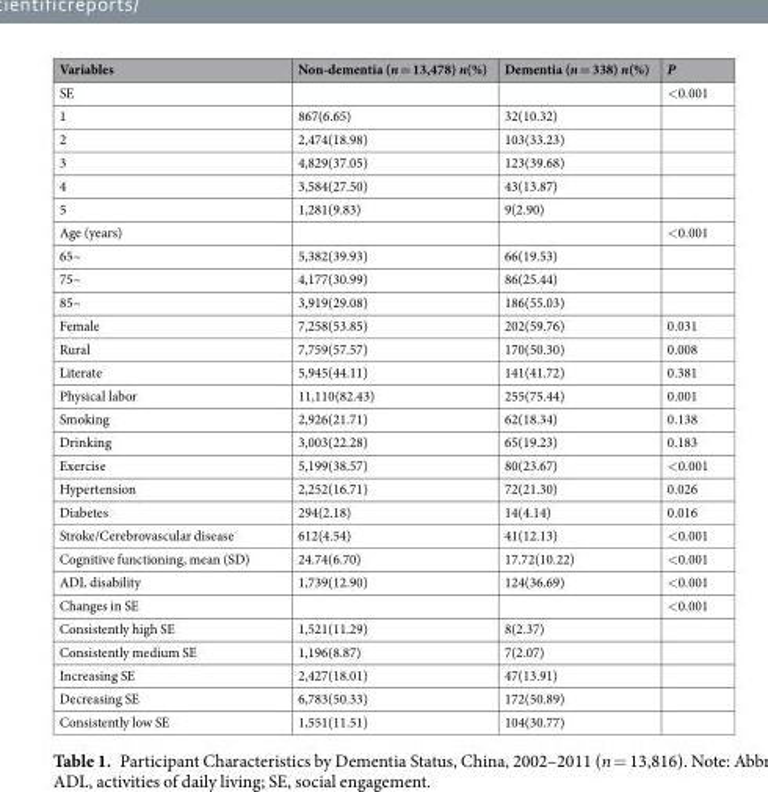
<table><thead><tr><td>Variables</td><td>Non-dementia (n = 13,478) n(%)</td><td>Dementia (n = 338) n(%)</td><td>P</td></tr></thead><tbody><tr><td>SE</td><td></td><td></td><td>&lt;0.001</td></tr><tr><td>1</td><td>867(6.65)</td><td>32(10.32)</td><td></td></tr><tr><td>2</td><td>2,474(18.98)</td><td>103(33.23)</td><td></td></tr><tr><td>3</td><td>4,829(37.05)</td><td>123(39.68)</td><td></td></tr><tr><td>4</td><td>3,584(27.50)</td><td>43(13.87)</td><td></td></tr><tr><td>5</td><td>1,281(9.83)</td><td>9(2.90)</td><td></td></tr><tr><td>Age (years)</td><td></td><td></td><td>&lt;0.001</td></tr><tr><td>65~</td><td>5,382(39.93)</td><td>66(19.53)</td><td></td></tr><tr><td>75~</td><td>4,177(30.99)</td><td>86(25.44)</td><td></td></tr><tr><td>85~</td><td>3,919(29.08)</td><td>186(55.03)</td><td></td></tr><tr><td>Female</td><td>7,258(53.85)</td><td>202(59.76)</td><td>0.031</td></tr><tr><td>Rural</td><td>7,759(57.57)</td><td>170(50.30)</td><td>0.008</td></tr><tr><td>Literate</td><td>5,945(44.11)</td><td>141(41.72)</td><td>0.381</td></tr><tr><td>Physical labor</td><td>11,110(82.43)</td><td>255(75.44)</td><td>0.001</td></tr><tr><td>Smoking</td><td>2,926(21.71)</td><td>62(18.34)</td><td>0.138</td></tr><tr><td>Drinking</td><td>3,003(22.28)</td><td>65(19.23)</td><td>0.183</td></tr><tr><td>Exercise</td><td>5,199(38.57)</td><td>80(23.67)</td><td>&lt;0.001</td></tr><tr><td>Hypertension</td><td>2,252(16.71)</td><td>72(21.30)</td><td>0.026</td></tr><tr><td>Diabetes</td><td>294(2.18)</td><td>14(4.14)</td><td>0.016</td></tr><tr><td>Stroke/Cerebrovascular disease</td><td>612(4.54)</td><td>41(12.13)</td><td>&lt;0.001</td></tr><tr><td>Cognitive functioning, mean (SD)</td><td>24.74(6.70)</td><td>17.72(10.22)</td><td>&lt;0.001</td></tr><tr><td>ADL disability</td><td>1,739(12.90)</td><td>124(36.69)</td><td>&lt;0.001</td></tr><tr><td>Changes in SE</td><td></td><td></td><td>&lt;0.001</td></tr><tr><td>Consistently high SE</td><td>1,521(11.29)</td><td>8(2.37)</td><td></td></tr><tr><td>Consistently medium SE</td><td>1,196(8.87)</td><td>7(2.07)</td><td></td></tr><tr><td>Increasing SE</td><td>2,427(18.01)</td><td>47(13.91)</td><td></td></tr><tr><td>Decreasing SE</td><td>6,783(50.33)</td><td>172(50.89)</td><td></td></tr><tr><td>Consistently low SE</td><td>1,551(11.51)</td><td>104(30.77)</td><td></td></tr></tbody></table>